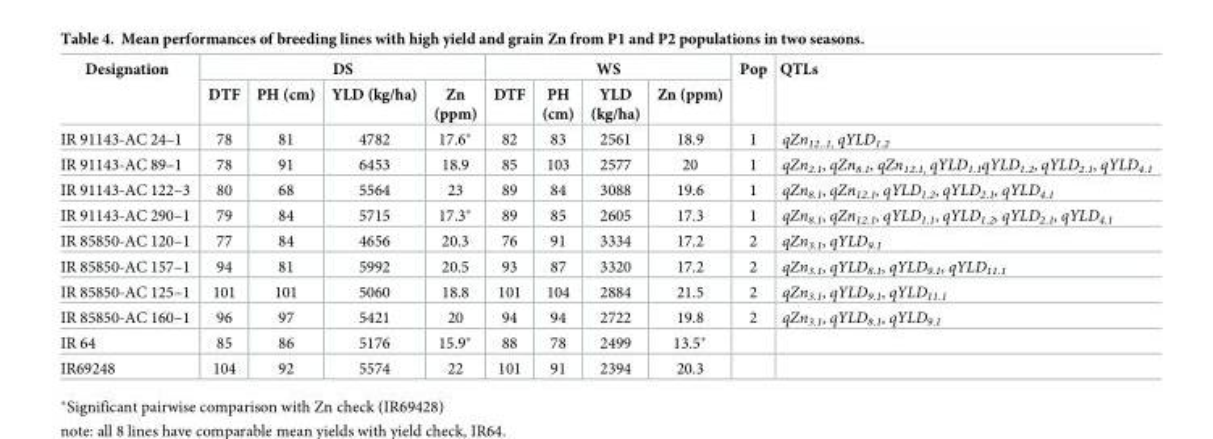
<table><thead><tr><td rowspan="2">Designation</td><td colspan="4">DS</td><td colspan="4">WS</td><td rowspan="2">Pop</td><td rowspan="2">QTLs</td></tr><tr><td>DTF</td><td>PH (cm)</td><td>YLD (kg/ha)</td><td>Zn (ppm)</td><td>DTF</td><td>PH (cm)</td><td>YLD (kg/ha)</td><td>Zn (ppm)</td></tr></thead><tbody><tr><td>IR 91143-AC 24–1</td><td>78</td><td>81</td><td>4782</td><td>17.6*</td><td>82</td><td>83</td><td>2561</td><td>18.9</td><td>1</td><td>qZn<sub>12..1,</sub> qYLD<sub>1.2</sub></td></tr><tr><td>IR 91143-AC 89–1</td><td>78</td><td>91</td><td>6453</td><td>18.9</td><td>85</td><td>103</td><td>2577</td><td>20</td><td>1</td><td>qZn<sub>2.1</sub>, qZn<sub>8.1</sub>, qZn<sub>12.1,</sub> qYLD<sub>1.1</sub>qYLD<sub>1.2</sub>, qYLD<sub>2.1</sub>, qYLD<sub>4.1</sub></td></tr><tr><td>IR 91143-AC 122–3</td><td>80</td><td>68</td><td>5564</td><td>23</td><td>89</td><td>84</td><td>3088</td><td>19.6</td><td>1</td><td>qZn<sub>8.1</sub>, qZn<sub>12.1</sub>, qYLD<sub>1.2</sub>, qYLD<sub>2.1</sub>, qYLD<sub>4.1</sub></td></tr><tr><td>IR 91143-AC 290–1</td><td>79</td><td>84</td><td>5715</td><td>17.3*</td><td>89</td><td>85</td><td>2605</td><td>17.3</td><td>1</td><td>qZn<sub>8.1</sub>, qZn<sub>12.1</sub>, qYLD<sub>1.1</sub>, qYLD<sub>1.2</sub>, qYLD<sub>2.1</sub>, qYLD<sub>4.1</sub></td></tr><tr><td>IR 85850-AC 120–1</td><td>77</td><td>84</td><td>4656</td><td>20.3</td><td>76</td><td>91</td><td>3334</td><td>17.2</td><td>2</td><td>qZn<sub>3.1</sub>, qYLD<sub>9.1</sub></td></tr><tr><td>IR 85850-AC 157–1</td><td>94</td><td>81</td><td>5992</td><td>20.5</td><td>93</td><td>87</td><td>3320</td><td>17.2</td><td>2</td><td>qZn<sub>3.1</sub>, qYLD<sub>8.1</sub>, qYLD<sub>9.1</sub>, qYLD<sub>11.1</sub></td></tr><tr><td>IR 85850-AC 125–1</td><td>101</td><td>101</td><td>5060</td><td>18.8</td><td>101</td><td>104</td><td>2884</td><td>21.5</td><td>2</td><td>qZn<sub>3.1</sub>, qYLD<sub>9.1</sub>, qYLD<sub>11.1</sub></td></tr><tr><td>IR 85850-AC 160–1</td><td>96</td><td>97</td><td>5421</td><td>20</td><td>94</td><td>94</td><td>2722</td><td>19.8</td><td>2</td><td>qZn<sub>3.1</sub>, qYLD<sub>8.1</sub>, qYLD<sub>9.1</sub></td></tr><tr><td>IR 64</td><td>85</td><td>86</td><td>5176</td><td>15.9*</td><td>88</td><td>78</td><td>2499</td><td>13.5*</td><td></td><td></td></tr><tr><td>IR69248</td><td>104</td><td>92</td><td>5574</td><td>22</td><td>101</td><td>91</td><td>2394</td><td>20.3</td><td></td><td></td></tr></tbody></table>